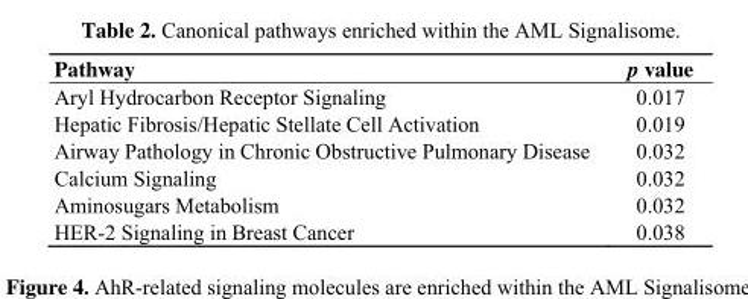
<table><thead><tr><td>Pathway</td><td>p value</td></tr></thead><tbody><tr><td>Aryl Hydrocarbon Receptor Signaling</td><td>0.017</td></tr><tr><td>Hepatic Fibrosis/Hepatic Stellate Cell Activation</td><td>0.019</td></tr><tr><td>Airway Pathology in Chronic Obstructive Pulmonary Disease</td><td>0.032</td></tr><tr><td>Calcium Signaling</td><td>0.032</td></tr><tr><td>Aminosugars Metabolism</td><td>0.032</td></tr><tr><td>HER-2 Signaling in Breast Cancer</td><td>0.038</td></tr></tbody></table>